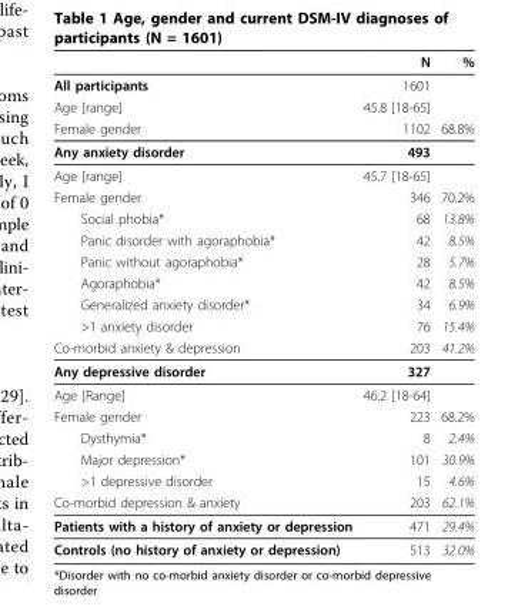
<table><thead><tr><td></td><td>N</td><td>%</td></tr></thead><tbody><tr><td>All participants</td><td>1601</td><td></td></tr><tr><td>Age [range]</td><td>45.8 [18-65]</td><td></td></tr><tr><td>Female gender</td><td>1102</td><td>68.8%</td></tr><tr><td>Any anxiety disorder</td><td>493</td><td></td></tr><tr><td>Age [range]</td><td>45.7 [18-65]</td><td></td></tr><tr><td>Female gender</td><td>346</td><td>70.2%</td></tr><tr><td>Social phobia*</td><td>68</td><td>13.8%</td></tr><tr><td>Panic disorder with agoraphobia*</td><td>42</td><td>8.5%</td></tr><tr><td>Panic without agoraphobia*</td><td>28</td><td>5.7%</td></tr><tr><td>Agoraphobia*</td><td>42</td><td>8.5%</td></tr><tr><td>Generalized anxiety disorder*</td><td>34</td><td>6.9%</td></tr><tr><td>&gt;1 anxiety disorder</td><td>76</td><td>15.4%</td></tr><tr><td>Co-morbid anxiety &amp; depression</td><td>203</td><td>41.2%</td></tr><tr><td>Any depressive disorder</td><td>327</td><td></td></tr><tr><td>Age [Range]</td><td>46.2 [18-64]</td><td></td></tr><tr><td>Female gender</td><td>223</td><td>68.2%</td></tr><tr><td>Dysthymia*</td><td>8</td><td>2.4%</td></tr><tr><td>Major depression*</td><td>101</td><td>30.9%</td></tr><tr><td>&gt;1 depressive disorder</td><td>15</td><td>4.6%</td></tr><tr><td>Co-morbid depression &amp; anxiety</td><td>203</td><td>62.1%</td></tr><tr><td>Patients with a history of anxiety or depression</td><td>471</td><td>29.4%</td></tr><tr><td>Controls (no history of anxiety or depression)</td><td>513</td><td>32.0%</td></tr></tbody></table>